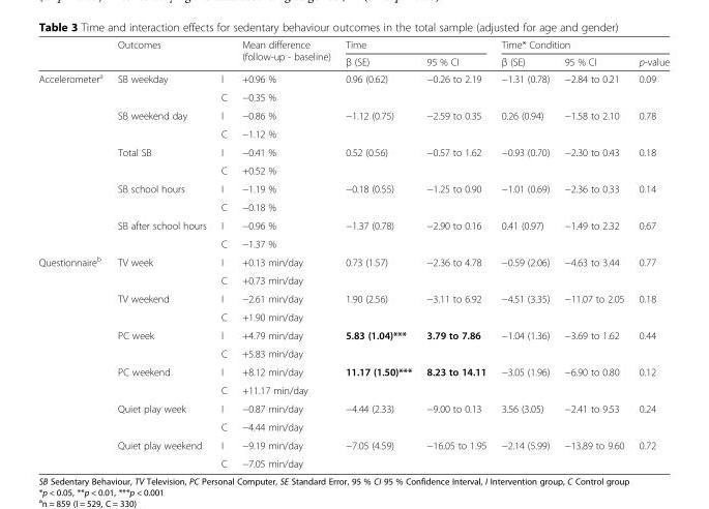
<table><thead><tr><td rowspan="2"></td><td rowspan="2">Outcomes</td><td rowspan="2"></td><td rowspan="2">Mean difference (follow-up - baseline)</td><td colspan="2">Time</td><td colspan="3">Time* Condition</td></tr><tr><td>β (SE)</td><td>95 % CI</td><td>β (SE)</td><td>95 % CI</td><td>p-value</td></tr></thead><tbody><tr><td rowspan="10">Accelerometer<sup>a</sup></td><td>SB weekday</td><td>I</td><td>+0.96 %</td><td rowspan="2">0.96 (0.62)</td><td rowspan="2">−0.26 to 2.19</td><td rowspan="2">−1.31 (0.78)</td><td rowspan="2">−2.84 to 0.21</td><td rowspan="2">0.09</td></tr><tr><td></td><td>C</td><td>−0.35 %</td></tr><tr><td>SB weekend day</td><td>I</td><td>−0.86 %</td><td rowspan="2">−1.12 (0.75)</td><td rowspan="2">−2.59 to 0.35</td><td rowspan="2">0.26 (0.94)</td><td rowspan="2">−1.58 to 2.10</td><td rowspan="2">0.78</td></tr><tr><td></td><td>C</td><td>−1.12 %</td></tr><tr><td>Total SB</td><td>I</td><td>−0.41 %</td><td rowspan="2">0.52 (0.56)</td><td rowspan="2">−0.57 to 1.62</td><td rowspan="2">−0.93 (0.70)</td><td rowspan="2">−2.30 to 0.43</td><td rowspan="2">0.18</td></tr><tr><td></td><td>C</td><td>+0.52 %</td></tr><tr><td>SB school hours</td><td>I</td><td>−1.19 %</td><td rowspan="2">−0.18 (0.55)</td><td rowspan="2">−1.25 to 0.90</td><td rowspan="2">−1.01 (0.69)</td><td rowspan="2">−2.36 to 0.33</td><td rowspan="2">0.14</td></tr><tr><td></td><td>C</td><td>−0.18 %</td></tr><tr><td>SB after school hours</td><td>I</td><td>−0.96 %</td><td rowspan="2">−1.37 (0.78)</td><td rowspan="2">−2.90 to 0.16</td><td rowspan="2">0.41 (0.97)</td><td rowspan="2">−1.49 to 2.32</td><td rowspan="2">0.67</td></tr><tr><td></td><td>C</td><td>−1.37 %</td></tr><tr><td rowspan="12">Questionnaire<sup>b</sup></td><td>TV week</td><td>I</td><td>+0.13 min/day</td><td rowspan="2">0.73 (1.57)</td><td rowspan="2">−2.36 to 4.78</td><td rowspan="2">−0.59 (2.06)</td><td rowspan="2">−4.63 to 3.44</td><td rowspan="2">0.77</td></tr><tr><td></td><td>C</td><td>+0.73 min/day</td></tr><tr><td>TV weekend</td><td>I</td><td>−2.61 min/day</td><td rowspan="2">1.90 (2.56)</td><td rowspan="2">−3.11 to 6.92</td><td rowspan="2">−4.51 (3.35)</td><td rowspan="2">−11.07 to 2.05</td><td rowspan="2">0.18</td></tr><tr><td></td><td>C</td><td>+1.90 min/day</td></tr><tr><td>PC week</td><td>I</td><td>+4.79 min/day</td><td rowspan="2">5.83 (1.04)***</td><td rowspan="2">3.79 to 7.86</td><td rowspan="2">−1.04 (1.36)</td><td rowspan="2">−3.69 to 1.62</td><td rowspan="2">0.44</td></tr><tr><td></td><td>C</td><td>+5.83 min/day</td></tr><tr><td>PC weekend</td><td>I</td><td>+8.12 min/day</td><td rowspan="2">11.17 (1.50)***</td><td rowspan="2">8.23 to 14.11</td><td rowspan="2">−3.05 (1.96)</td><td rowspan="2">−6.90 to 0.80</td><td rowspan="2">0.12</td></tr><tr><td></td><td>C</td><td>+11.17 min/day</td></tr><tr><td>Quiet play week</td><td>I</td><td>−0.87 min/day</td><td rowspan="2">−4.44 (2.33)</td><td rowspan="2">−9.00 to 0.13</td><td rowspan="2">3.56 (3.05)</td><td rowspan="2">−2.41 to 9.53</td><td rowspan="2">0.24</td></tr><tr><td></td><td>C</td><td>−4.44 min/day</td></tr><tr><td>Quiet play weekend</td><td>I</td><td>−9.19 min/day</td><td rowspan="2">−7.05 (4.59)</td><td rowspan="2">−16.05 to 1.95</td><td rowspan="2">−2.14 (5.99)</td><td rowspan="2">−13.89 to 9.60</td><td rowspan="2">0.72</td></tr><tr><td></td><td>C</td><td>−7.05 min/day</td></tr></tbody></table>